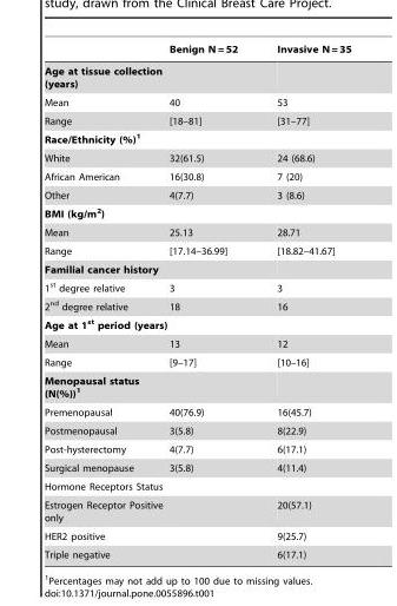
<table><thead><tr><td></td><td>Benign N = 52</td><td>Invasive N = 35</td></tr></thead><tbody><tr><td colspan="3">Age at tissue collection (years)</td></tr><tr><td>Mean</td><td>40</td><td>53</td></tr><tr><td>Range</td><td>[18–81]</td><td>[31–77]</td></tr><tr><td colspan="3">Race/Ethnicity (%)1</td></tr><tr><td>White</td><td>32(61.5)</td><td>24 (68.6)</td></tr><tr><td>African American</td><td>16(30.8)</td><td>7 (20)</td></tr><tr><td>Other</td><td>4(7.7)</td><td>3 (8.6)</td></tr><tr><td colspan="3">BMI (kg/m<sup>2</sup>)</td></tr><tr><td>Mean</td><td>25.13</td><td>28.71</td></tr><tr><td>Range</td><td>[17.14–36.99]</td><td>[18.82–41.67]</td></tr><tr><td colspan="3">Familial cancer history</td></tr><tr><td>1<sup>st</sup> degree relative</td><td>3</td><td>3</td></tr><tr><td>2<sup>nd</sup> degree relative</td><td>18</td><td>16</td></tr><tr><td colspan="3">Age at 1<sup>st</sup> period (years)</td></tr><tr><td>Mean</td><td>13</td><td>12</td></tr><tr><td>Range</td><td>[9–17]</td><td>[10–16]</td></tr><tr><td colspan="3">Menopausal status (N(%))1</td></tr><tr><td>Premenopausal</td><td>40(76.9)</td><td>16(45.7)</td></tr><tr><td>Postmenopausal</td><td>3(5.8)</td><td>8(22.9)</td></tr><tr><td>Post-hysterectomy</td><td>4(7.7)</td><td>6(17.1)</td></tr><tr><td>Surgical menopause</td><td>3(5.8)</td><td>4(11.4)</td></tr><tr><td colspan="3">Hormone Receptors Status</td></tr><tr><td>Estrogen Receptor Positive only</td><td></td><td>20(57.1)</td></tr><tr><td>HER2 positive</td><td></td><td>9(25.7)</td></tr><tr><td>Triple negative</td><td></td><td>6(17.1)</td></tr></tbody></table>